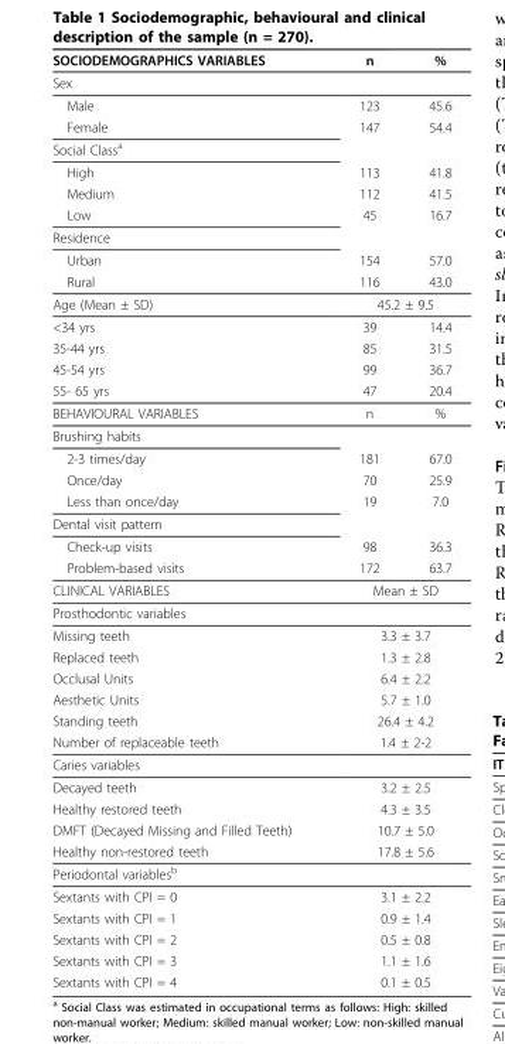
<table><thead><tr><td>SOCIODEMOGRAPHICS VARIABLES</td><td>n</td><td>%</td></tr></thead><tbody><tr><td colspan="3">Sex</td></tr><tr><td>Male</td><td>123</td><td>45.6</td></tr><tr><td>Female</td><td>147</td><td>54.4</td></tr><tr><td colspan="3">Social Class<sup>a</sup></td></tr><tr><td>High</td><td>113</td><td>41.8</td></tr><tr><td>Medium</td><td>112</td><td>41.5</td></tr><tr><td>Low</td><td>45</td><td>16.7</td></tr><tr><td colspan="3">Residence</td></tr><tr><td>Urban</td><td>154</td><td>57.0</td></tr><tr><td>Rural</td><td>116</td><td>43.0</td></tr><tr><td>Age (Mean ± SD)</td><td colspan="2">45.2 ± 9.5</td></tr><tr><td>&lt;34 yrs</td><td>39</td><td>14.4</td></tr><tr><td>35-44 yrs</td><td>85</td><td>31.5</td></tr><tr><td>45-54 yrs</td><td>99</td><td>36.7</td></tr><tr><td>55- 65 yrs</td><td>47</td><td>20.4</td></tr><tr><td>BEHAVIOURAL VARIABLES</td><td>n</td><td>%</td></tr><tr><td colspan="3">Brushing habits</td></tr><tr><td>2-3 times/day</td><td>181</td><td>67.0</td></tr><tr><td>Once/day</td><td>70</td><td>25.9</td></tr><tr><td>Less than once/day</td><td>19</td><td>7.0</td></tr><tr><td colspan="3">Dental visit pattern</td></tr><tr><td>Check-up visits</td><td>98</td><td>36.3</td></tr><tr><td>Problem-based visits</td><td>172</td><td>63.7</td></tr><tr><td>CLINICAL VARIABLES</td><td colspan="2">Mean ± SD</td></tr><tr><td colspan="3">Prosthodontic variables</td></tr><tr><td>Missing teeth</td><td colspan="2">3.3 ± 3.7</td></tr><tr><td>Replaced teeth</td><td colspan="2">1.3 ± 2.8</td></tr><tr><td>Occlusal Units</td><td colspan="2">6.4 ± 2.2</td></tr><tr><td>Aesthetic Units</td><td colspan="2">5.7 ± 1.0</td></tr><tr><td>Standing teeth</td><td colspan="2">26.4 ± 4.2</td></tr><tr><td>Number of replaceable teeth</td><td colspan="2">1.4 ± 2-2</td></tr><tr><td colspan="3">Caries variables</td></tr><tr><td>Decayed teeth</td><td colspan="2">3.2 ± 2.5</td></tr><tr><td>Healthy restored teeth</td><td colspan="2">4.3 ± 3.5</td></tr><tr><td>DMFT (Decayed Missing and Filled Teeth)</td><td colspan="2">10.7 ± 5.0</td></tr><tr><td>Healthy non-restored teeth</td><td colspan="2">17.8 ± 5.6</td></tr><tr><td colspan="3">Periodontal variables<sup>b</sup></td></tr><tr><td>Sextants with CPI = 0</td><td colspan="2">3.1 ± 2.2</td></tr><tr><td>Sextants with CPI = 1</td><td colspan="2">0.9 ± 1.4</td></tr><tr><td>Sextants with CPI = 2</td><td colspan="2">0.5 ± 0.8</td></tr><tr><td>Sextants with CPI = 3</td><td colspan="2">1.1 ± 1.6</td></tr><tr><td>Sextants with CPI = 4</td><td colspan="2">0.1 ± 0.5</td></tr></tbody></table>